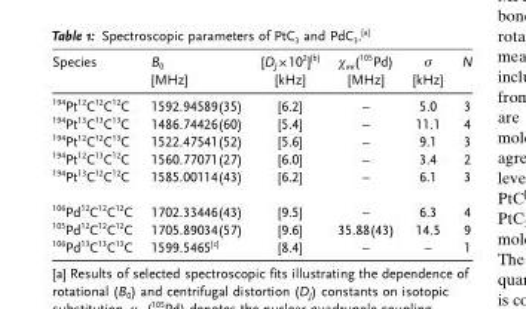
<table><thead><tr><td>Species</td><td>B<sub>0</sub> [MHz]</td><td>[D<sub>J</sub>×10<sup>2</sup>]<sup>[b]</sup> [kHz]</td><td>χ<sub>aa</sub>(<sup>105</sup>Pd) [MHz]</td><td>σ [kHz]</td><td>N</td></tr></thead><tbody><tr><td><sup>194</sup>Pt<sup>12</sup>C<sup>12</sup>C<sup>12</sup>C</td><td>1592.94589(35)</td><td>[6.2]</td><td>–</td><td>5.0</td><td>3</td></tr><tr><td><sup>194</sup>Pt<sup>13</sup>C<sup>13</sup>C<sup>13</sup>C</td><td>1486.74426(60)</td><td>[5.4]</td><td>–</td><td>11.1</td><td>4</td></tr><tr><td><sup>194</sup>Pt<sup>12</sup>C<sup>12</sup>C<sup>13</sup>C</td><td>1522.47541(52)</td><td>[5.6]</td><td>–</td><td>9.1</td><td>3</td></tr><tr><td><sup>194</sup>Pt<sup>12</sup>C<sup>13</sup>C<sup>12</sup>C</td><td>1560.77071(27)</td><td>[6.0]</td><td>–</td><td>3.4</td><td>2</td></tr><tr><td><sup>194</sup>Pt<sup>13</sup>C<sup>12</sup>C<sup>12</sup>C</td><td>1585.00114(43)</td><td>[6.2]</td><td>–</td><td>6.1</td><td>3</td></tr><tr><td><sup>106</sup>Pd<sup>12</sup>C<sup>12</sup>C<sup>12</sup>C</td><td>1702.33446(43)</td><td>[9.5]</td><td>–</td><td>6.3</td><td>4</td></tr><tr><td><sup>105</sup>Pd<sup>12</sup>C<sup>12</sup>C<sup>12</sup>C</td><td>1705.89034(57)</td><td>[9.6]</td><td>35.88(43)</td><td>14.5</td><td>9</td></tr><tr><td><sup>106</sup>Pd<sup>13</sup>C<sup>13</sup>C<sup>13</sup>C</td><td>1599.5465<sup>[c]</sup></td><td>[8.4]</td><td>–</td><td>–</td><td>1</td></tr></tbody></table>